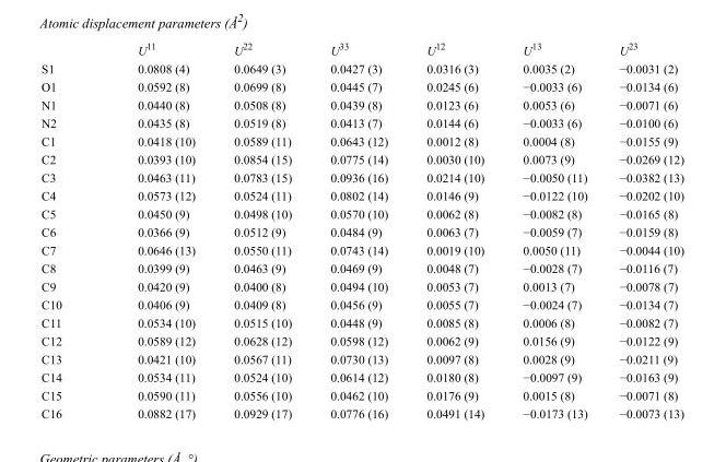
<table><thead><tr><td></td><td>U<sup>11</sup></td><td>U<sup>22</sup></td><td>U<sup>33</sup></td><td>U<sup>12</sup></td><td>U<sup>13</sup></td><td>U<sup>23</sup></td></tr></thead><tbody><tr><td>S1</td><td>0.0808 (4)</td><td>0.0649 (3)</td><td>0.0427 (3)</td><td>0.0316 (3)</td><td>0.0035 (2)</td><td>−0.0031 (2)</td></tr><tr><td>O1</td><td>0.0592 (8)</td><td>0.0699 (8)</td><td>0.0445 (7)</td><td>0.0245 (6)</td><td>−0.0033 (6)</td><td>−0.0134 (6)</td></tr><tr><td>N1</td><td>0.0440 (8)</td><td>0.0508 (8)</td><td>0.0439 (8)</td><td>0.0123 (6)</td><td>0.0053 (6)</td><td>−0.0071 (6)</td></tr><tr><td>N2</td><td>0.0435 (8)</td><td>0.0519 (8)</td><td>0.0413 (7)</td><td>0.0144 (6)</td><td>−0.0033 (6)</td><td>−0.0100 (6)</td></tr><tr><td>C1</td><td>0.0418 (10)</td><td>0.0589 (11)</td><td>0.0643 (12)</td><td>0.0012 (8)</td><td>0.0004 (8)</td><td>−0.0155 (9)</td></tr><tr><td>C2</td><td>0.0393 (10)</td><td>0.0854 (15)</td><td>0.0775 (14)</td><td>0.0030 (10)</td><td>0.0073 (9)</td><td>−0.0269 (12)</td></tr><tr><td>C3</td><td>0.0463 (11)</td><td>0.0783 (15)</td><td>0.0936 (16)</td><td>0.0214 (10)</td><td>−0.0050 (11)</td><td>−0.0382 (13)</td></tr><tr><td>C4</td><td>0.0573 (12)</td><td>0.0524 (11)</td><td>0.0802 (14)</td><td>0.0146 (9)</td><td>−0.0122 (10)</td><td>−0.0202 (10)</td></tr><tr><td>C5</td><td>0.0450 (9)</td><td>0.0498 (10)</td><td>0.0570 (10)</td><td>0.0062 (8)</td><td>−0.0082 (8)</td><td>−0.0165 (8)</td></tr><tr><td>C6</td><td>0.0366 (9)</td><td>0.0512 (9)</td><td>0.0484 (9)</td><td>0.0063 (7)</td><td>−0.0059 (7)</td><td>−0.0159 (8)</td></tr><tr><td>C7</td><td>0.0646 (13)</td><td>0.0550 (11)</td><td>0.0743 (14)</td><td>0.0019 (10)</td><td>0.0050 (11)</td><td>−0.0044 (10)</td></tr><tr><td>C8</td><td>0.0399 (9)</td><td>0.0463 (9)</td><td>0.0469 (9)</td><td>0.0048 (7)</td><td>−0.0028 (7)</td><td>−0.0116 (7)</td></tr><tr><td>C9</td><td>0.0420 (9)</td><td>0.0400 (8)</td><td>0.0494 (10)</td><td>0.0053 (7)</td><td>0.0013 (7)</td><td>−0.0078 (7)</td></tr><tr><td>C10</td><td>0.0406 (9)</td><td>0.0409 (8)</td><td>0.0456 (9)</td><td>0.0055 (7)</td><td>−0.0024 (7)</td><td>−0.0134 (7)</td></tr><tr><td>C11</td><td>0.0534 (10)</td><td>0.0515 (10)</td><td>0.0448 (9)</td><td>0.0085 (8)</td><td>0.0006 (8)</td><td>−0.0082 (7)</td></tr><tr><td>C12</td><td>0.0589 (12)</td><td>0.0628 (12)</td><td>0.0598 (12)</td><td>0.0062 (9)</td><td>0.0156 (9)</td><td>−0.0122 (9)</td></tr><tr><td>C13</td><td>0.0421 (10)</td><td>0.0567 (11)</td><td>0.0730 (13)</td><td>0.0097 (8)</td><td>0.0028 (9)</td><td>−0.0211 (9)</td></tr><tr><td>C14</td><td>0.0534 (11)</td><td>0.0524 (10)</td><td>0.0614 (12)</td><td>0.0180 (8)</td><td>−0.0097 (9)</td><td>−0.0163 (9)</td></tr><tr><td>C15</td><td>0.0590 (11)</td><td>0.0556 (10)</td><td>0.0462 (10)</td><td>0.0176 (9)</td><td>0.0015 (8)</td><td>−0.0071 (8)</td></tr><tr><td>C16</td><td>0.0882 (17)</td><td>0.0929 (17)</td><td>0.0776 (16)</td><td>0.0491 (14)</td><td>−0.0173 (13)</td><td>−0.0073 (13)</td></tr></tbody></table>